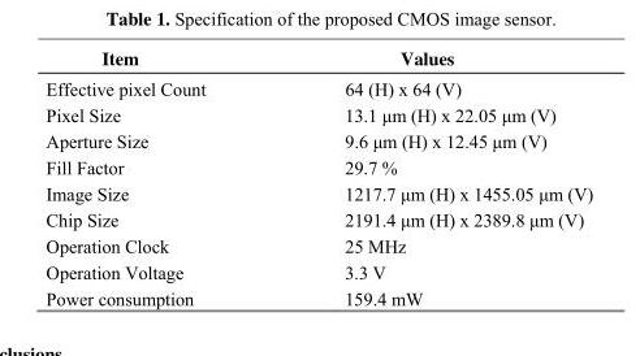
<table><thead><tr><td>Item</td><td>Values</td></tr></thead><tbody><tr><td>Effective pixel Count</td><td>64 (H) x 64 (V)</td></tr><tr><td>Pixel Size</td><td>13.1 μm (H) x 22.05 μm (V)</td></tr><tr><td>Aperture Size</td><td>9.6 μm (H) x 12.45 μm (V)</td></tr><tr><td>Fill Factor</td><td>29.7 %</td></tr><tr><td>Image Size</td><td>1217.7 μm (H) x 1455.05 μm (V)</td></tr><tr><td>Chip Size</td><td>2191.4 μm (H) x 2389.8 μm (V)</td></tr><tr><td>Operation Clock</td><td>25 MHz</td></tr><tr><td>Operation Voltage</td><td>3.3 V</td></tr><tr><td>Power consumption</td><td>159.4 mW</td></tr></tbody></table>